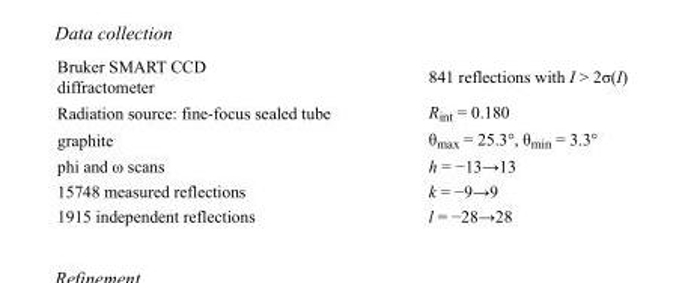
<table><tbody><tr><td>Bruker SMART CCD diffractometer</td><td>841 reflections with I &gt; 2σ(I)</td></tr><tr><td>Radiation source: fine-focus sealed tube</td><td>R<sub>int</sub> = 0.180</td></tr><tr><td>graphite</td><td>θ<sub>max</sub> = 25.3°, θ<sub>min</sub> = 3.3°</td></tr><tr><td>phi and ω scans</td><td>h = −13→13</td></tr><tr><td>15748 measured reflections</td><td>k = −9→9</td></tr><tr><td>1915 independent reflections</td><td>l = −28→28</td></tr></tbody></table>